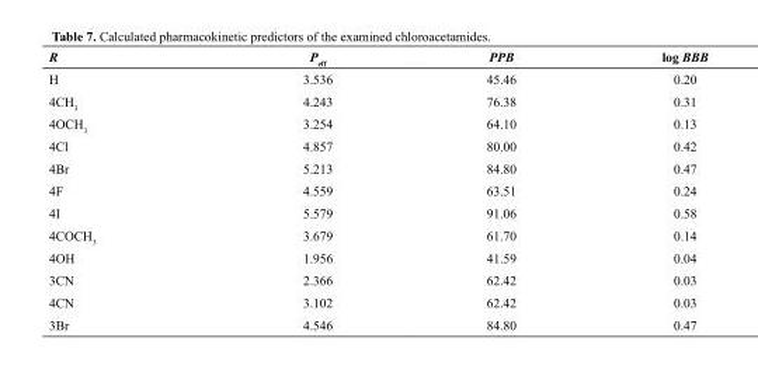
<table><thead><tr><td>R</td><td>P<sub>eff</sub></td><td>PPB</td><td>log BBB</td></tr></thead><tbody><tr><td>H</td><td>3.536</td><td>45.46</td><td>0.20</td></tr><tr><td>4CH<sub>3</sub></td><td>4.243</td><td>76.38</td><td>0.31</td></tr><tr><td>4OCH<sub>3</sub></td><td>3.254</td><td>64.10</td><td>0.13</td></tr><tr><td>4Cl</td><td>4.857</td><td>80.00</td><td>0.42</td></tr><tr><td>4Br</td><td>5.213</td><td>84.80</td><td>0.47</td></tr><tr><td>4F</td><td>4.559</td><td>63.51</td><td>0.24</td></tr><tr><td>4I</td><td>5.579</td><td>91.06</td><td>0.58</td></tr><tr><td>4COCH<sub>3</sub></td><td>3.679</td><td>61.70</td><td>0.14</td></tr><tr><td>4OH</td><td>1.956</td><td>41.59</td><td>0.04</td></tr><tr><td>3CN</td><td>2.366</td><td>62.42</td><td>0.03</td></tr><tr><td>4CN</td><td>3.102</td><td>62.42</td><td>0.03</td></tr><tr><td>3Br</td><td>4.546</td><td>84.80</td><td>0.47</td></tr></tbody></table>